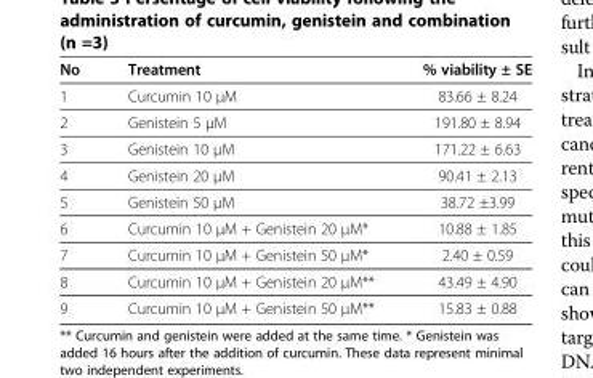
<table><thead><tr><td>No</td><td>Treatment</td><td>% viability ± SE</td></tr></thead><tbody><tr><td>1</td><td>Curcumin 10 μM</td><td>83.66 ± 8.24</td></tr><tr><td>2</td><td>Genistein 5 μM</td><td>191.80 ± 8.94</td></tr><tr><td>3</td><td>Genistein 10 μM</td><td>171.22 ± 6.63</td></tr><tr><td>4</td><td>Genistein 20 μM</td><td>90.41 ± 2.13</td></tr><tr><td>5</td><td>Genistein 50 μM</td><td>38.72 ±3.99</td></tr><tr><td>6</td><td>Curcumin 10 μM + Genistein 20 μM*</td><td>10.88 ± 1.85</td></tr><tr><td>7</td><td>Curcumin 10 μM + Genistein 50 μM*</td><td>2.40 ± 0.59</td></tr><tr><td>8</td><td>Curcumin 10 μM + Genistein 20 μM**</td><td>43.49 ± 4.90</td></tr><tr><td>9</td><td>Curcumin 10 μM + Genistein 50 μM**</td><td>15.83 ± 0.88</td></tr></tbody></table>